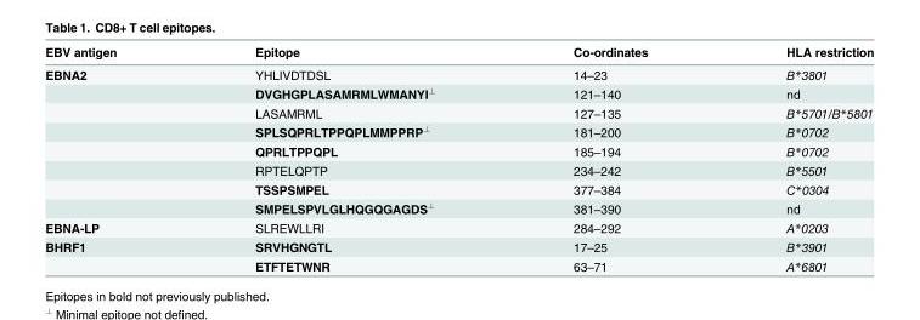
<table><thead><tr><td>EBV antigen</td><td>Epitope</td><td>Co-ordinates</td><td>HLA restriction</td></tr></thead><tbody><tr><td rowspan="8">EBNA2</td><td>YHLIVDTDSL</td><td>14–23</td><td>B*3801</td></tr><tr><td>DVGHGPLASAMRMLWMANYI<sup>⊥</sup></td><td>121–140</td><td>nd</td></tr><tr><td>LASAMRML</td><td>127–135</td><td>B*5701/B*5801</td></tr><tr><td>SPLSQPRLTPPQPLMMPPRP<sup>⊥</sup></td><td>181–200</td><td>B*0702</td></tr><tr><td>QPRLTPPQPL</td><td>185–194</td><td>B*0702</td></tr><tr><td>RPTELQPTP</td><td>234–242</td><td>B*5501</td></tr><tr><td>TSSPSMPEL</td><td>377–384</td><td>C*0304</td></tr><tr><td>SMPELSPVLGLHQGQGAGDS<sup>⊥</sup></td><td>381–390</td><td>nd</td></tr><tr><td>EBNA-LP</td><td>SLREWLLRI</td><td>284–292</td><td>A*0203</td></tr><tr><td rowspan="2">BHRF1</td><td>SRVHGNGTL</td><td>17–25</td><td>B*3901</td></tr><tr><td>ETFTETWNR</td><td>63–71</td><td>A*6801</td></tr></tbody></table>